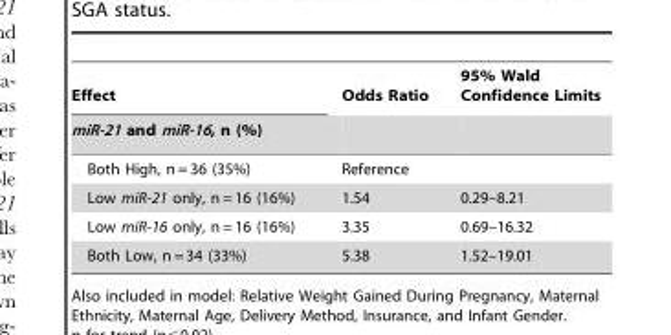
<table><thead><tr><td rowspan="2">Effect miR-21 and miR-16, n (%)</td><td rowspan="2">Odds Ratio</td><td rowspan="2">95% Wald Confidence Limits</td></tr><tr></tr></thead><tbody><tr><td>Both High, n = 36 (35%)</td><td>Reference</td><td></td></tr><tr><td>Low miR-21 only, n = 16 (16%)</td><td>1.54</td><td>0.29–8.21</td></tr><tr><td>Low miR-16 only, n = 16 (16%)</td><td>3.35</td><td>0.69–16.32</td></tr><tr><td>Both Low, n = 34 (33%)</td><td>5.38</td><td>1.52–19.01</td></tr></tbody></table>